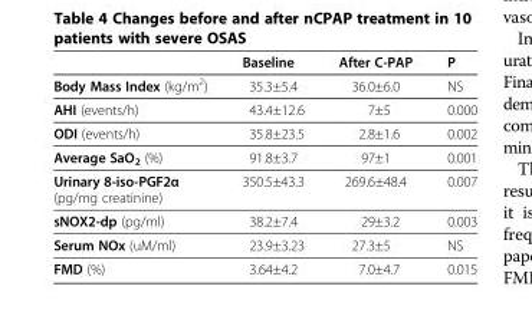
<table><thead><tr><td></td><td>Baseline</td><td>After C-PAP</td><td>P</td></tr></thead><tbody><tr><td>Body Mass Index (kg/m<sup>2</sup>)</td><td>35.3±5.4</td><td>36.0±6.0</td><td>NS</td></tr><tr><td>AHI (events/h)</td><td>43.4±12.6</td><td>7±5</td><td>0.000</td></tr><tr><td>ODI (events/h)</td><td>35.8±23.5</td><td>2.8±1.6</td><td>0.002</td></tr><tr><td>Average SaO<sub>2</sub> (%)</td><td>91.8±3.7</td><td>97±1</td><td>0.001</td></tr><tr><td>Urinary 8-iso-PGF2α (pg/mg creatinine)</td><td>350.5±43.3</td><td>269.6±48.4</td><td>0.007</td></tr><tr><td>sNOX2-dp (pg/ml)</td><td>38.2±7.4</td><td>29±3.2</td><td>0.003</td></tr><tr><td>Serum NOx (uM/ml)</td><td>23.9±3.23</td><td>27.3±5</td><td>NS</td></tr><tr><td>FMD (%)</td><td>3.64±4.2</td><td>7.0±4.7</td><td>0.015</td></tr></tbody></table>